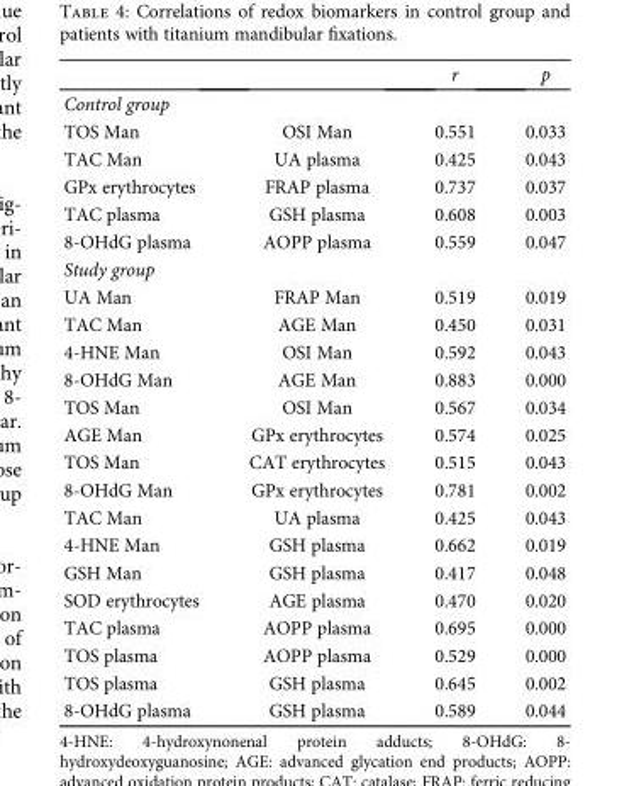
<table><thead><tr><td></td><td></td><td>r</td><td>p</td></tr></thead><tbody><tr><td colspan="4">Control group</td></tr><tr><td>TOS Man</td><td>OSI Man</td><td>0.551</td><td>0.033</td></tr><tr><td>TAC Man</td><td>UA plasma</td><td>0.425</td><td>0.043</td></tr><tr><td>GPx erythrocytes</td><td>FRAP plasma</td><td>0.737</td><td>0.037</td></tr><tr><td>TAC plasma</td><td>GSH plasma</td><td>0.608</td><td>0.003</td></tr><tr><td>8-OHdG plasma</td><td>AOPP plasma</td><td>0.559</td><td>0.047</td></tr><tr><td colspan="4">Study group</td></tr><tr><td>UA Man</td><td>FRAP Man</td><td>0.519</td><td>0.019</td></tr><tr><td>TAC Man</td><td>AGE Man</td><td>0.450</td><td>0.031</td></tr><tr><td>4-HNE Man</td><td>OSI Man</td><td>0.592</td><td>0.043</td></tr><tr><td>8-OHdG Man</td><td>AGE Man</td><td>0.883</td><td>0.000</td></tr><tr><td>TOS Man</td><td>OSI Man</td><td>0.567</td><td>0.034</td></tr><tr><td>AGE Man</td><td>GPx erythrocytes</td><td>0.574</td><td>0.025</td></tr><tr><td>TOS Man</td><td>CAT erythrocytes</td><td>0.515</td><td>0.043</td></tr><tr><td>8-OHdG Man</td><td>GPx erythrocytes</td><td>0.781</td><td>0.002</td></tr><tr><td>TAC Man</td><td>UA plasma</td><td>0.425</td><td>0.043</td></tr><tr><td>4-HNE Man</td><td>GSH plasma</td><td>0.662</td><td>0.019</td></tr><tr><td>GSH Man</td><td>GSH plasma</td><td>0.417</td><td>0.048</td></tr><tr><td>SOD erythrocytes</td><td>AGE plasma</td><td>0.470</td><td>0.020</td></tr><tr><td>TAC plasma</td><td>AOPP plasma</td><td>0.695</td><td>0.000</td></tr><tr><td>TOS plasma</td><td>AOPP plasma</td><td>0.529</td><td>0.000</td></tr><tr><td>TOS plasma</td><td>GSH plasma</td><td>0.645</td><td>0.002</td></tr><tr><td>8-OHdG plasma</td><td>GSH plasma</td><td>0.589</td><td>0.044</td></tr></tbody></table>